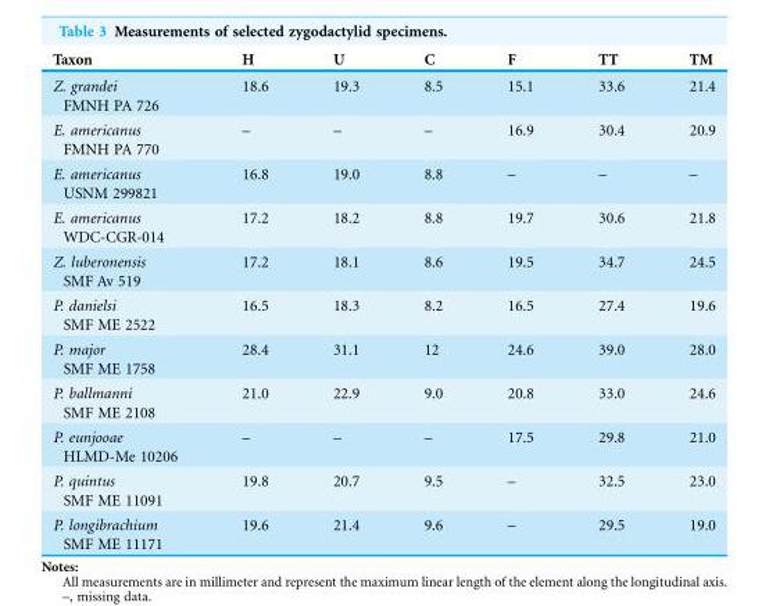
<table><thead><tr><td>Taxon</td><td>H</td><td>U</td><td>C</td><td>F</td><td>TT</td><td>TM</td></tr></thead><tbody><tr><td>Z. grandei FMNH PA 726</td><td>18.6</td><td>19.3</td><td>8.5</td><td>15.1</td><td>33.6</td><td>21.4</td></tr><tr><td>E. americanus FMNH PA 770</td><td>–</td><td>–</td><td>–</td><td>16.9</td><td>30.4</td><td>20.9</td></tr><tr><td>E. americanus USNM 299821</td><td>16.8</td><td>19.0</td><td>8.8</td><td>–</td><td>–</td><td>–</td></tr><tr><td>E. americanus WDC-CGR-014</td><td>17.2</td><td>18.2</td><td>8.8</td><td>19.7</td><td>30.6</td><td>21.8</td></tr><tr><td>Z. luberonensis SMF Av 519</td><td>17.2</td><td>18.1</td><td>8.6</td><td>19.5</td><td>34.7</td><td>24.5</td></tr><tr><td>P. danielsi SMF ME 2522</td><td>16.5</td><td>18.3</td><td>8.2</td><td>16.5</td><td>27.4</td><td>19.6</td></tr><tr><td>P. major SMF ME 1758</td><td>28.4</td><td>31.1</td><td>12</td><td>24.6</td><td>39.0</td><td>28.0</td></tr><tr><td>P. ballmanni SMF ME 2108</td><td>21.0</td><td>22.9</td><td>9.0</td><td>20.8</td><td>33.0</td><td>24.6</td></tr><tr><td>P. eunjooae HLMD-Me 10206</td><td>–</td><td>–</td><td>–</td><td>17.5</td><td>29.8</td><td>21.0</td></tr><tr><td>P. quintus SMF ME 11091</td><td>19.8</td><td>20.7</td><td>9.5</td><td>–</td><td>32.5</td><td>23.0</td></tr><tr><td>P. longibrachium SMF ME 11171</td><td>19.6</td><td>21.4</td><td>9.6</td><td>–</td><td>29.5</td><td>19.0</td></tr></tbody></table>